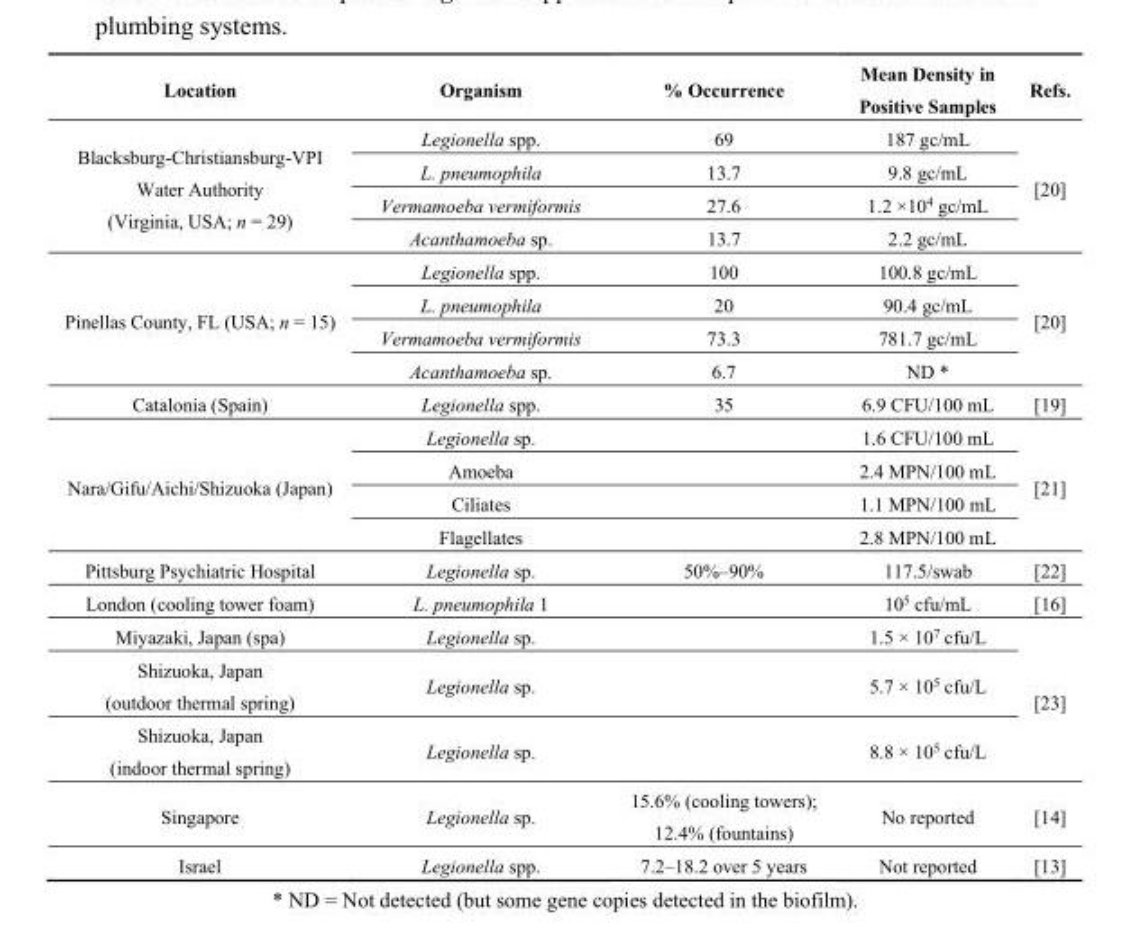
<table><thead><tr><td>Location</td><td>Organism</td><td>% Occurrence</td><td>Mean Density in Positive Samples</td><td>Refs.</td></tr></thead><tbody><tr><td rowspan="4">Blacksburg-Christiansburg-VPI Water Authority (Virginia, USA; n = 29)</td><td>Legionella spp.</td><td>69</td><td>187 gc/mL</td><td rowspan="4">[20]</td></tr><tr><td>L. pneumophila</td><td>13.7</td><td>9.8 gc/mL</td></tr><tr><td>Vermamoeba vermiformis</td><td>27.6</td><td>1.2 ×10<sup>4</sup> gc/mL</td></tr><tr><td>Acanthamoeba sp.</td><td>13.7</td><td>2.2 gc/mL</td></tr><tr><td rowspan="4">Pinellas County, FL (USA; n = 15)</td><td>Legionella spp.</td><td>100</td><td>100.8 gc/mL</td><td rowspan="4">[20]</td></tr><tr><td>L. pneumophila</td><td>20</td><td>90.4 gc/mL</td></tr><tr><td>Vermamoeba vermiformis</td><td>73.3</td><td>781.7 gc/mL</td></tr><tr><td>Acanthamoeba sp.</td><td>6.7</td><td>ND *</td></tr><tr><td>Catalonia (Spain)</td><td>Legionella spp.</td><td>35</td><td>6.9 CFU/100 mL</td><td>[19]</td></tr><tr><td rowspan="4">Nara/Gifu/Aichi/Shizuoka (Japan)</td><td>Legionella sp.</td><td></td><td>1.6 CFU/100 mL</td><td rowspan="4">[21]</td></tr><tr><td>Amoeba</td><td></td><td>2.4 MPN/100 mL</td></tr><tr><td>Ciliates</td><td></td><td>1.1 MPN/100 mL</td></tr><tr><td>Flagellates</td><td></td><td>2.8 MPN/100 mL</td></tr><tr><td>Pittsburg Psychiatric Hospital</td><td>Legionella sp.</td><td>50%–90%</td><td>117.5/swab</td><td>[22]</td></tr><tr><td>London (cooling tower foam)</td><td>L. pneumophila 1</td><td></td><td>10<sup>5</sup> cfu/mL</td><td>[16]</td></tr><tr><td>Miyazaki, Japan (spa)</td><td>Legionella sp.</td><td></td><td>1.5 × 10<sup>7</sup> cfu/L</td><td rowspan="3">[23]</td></tr><tr><td>Shizuoka, Japan (outdoor thermal spring)</td><td>Legionella sp.</td><td></td><td>5.7 × 10<sup>5</sup> cfu/L</td></tr><tr><td>Shizuoka, Japan (indoor thermal spring)</td><td>Legionella sp.</td><td></td><td>8.8 × 10<sup>5</sup> cfu/L</td></tr><tr><td>Singapore</td><td>Legionella sp.</td><td>15.6% (cooling towers); 12.4% (fountains)</td><td>No reported</td><td>[14]</td></tr><tr><td>Israel</td><td>Legionella spp.</td><td>7.2–18.2 over 5 years</td><td>Not reported</td><td>[13]</td></tr></tbody></table>